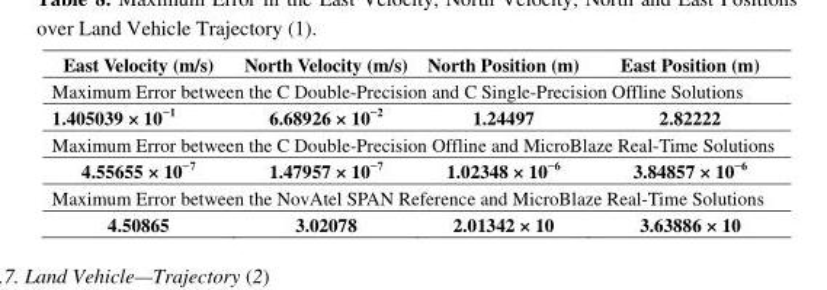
<table><thead><tr><td>East Velocity (m/s)</td><td>North Velocity (m/s)</td><td>North Position (m)</td><td>East Position (m)</td></tr></thead><tbody><tr><td colspan="4">Maximum Error between the C Double-Precision and C Single-Precision Offline Solutions</td></tr><tr><td>1.405039 × 10<sup>−1</sup></td><td>6.68926 × 10<sup>−2</sup></td><td>1.24497</td><td>2.82222</td></tr><tr><td colspan="4">Maximum Error between the C Double-Precision Offline and MicroBlaze Real-Time Solutions</td></tr><tr><td>4.55655 × 10<sup>−7</sup></td><td>1.47957 × 10<sup>−7</sup></td><td>1.02348 × 10<sup>−6</sup></td><td>3.84857 × 10<sup>−6</sup></td></tr><tr><td colspan="4">Maximum Error between the NovAtel SPAN Reference and MicroBlaze Real-Time Solutions</td></tr><tr><td>4.50865</td><td>3.02078</td><td>2.01342 × 10</td><td>3.63886 × 10</td></tr></tbody></table>